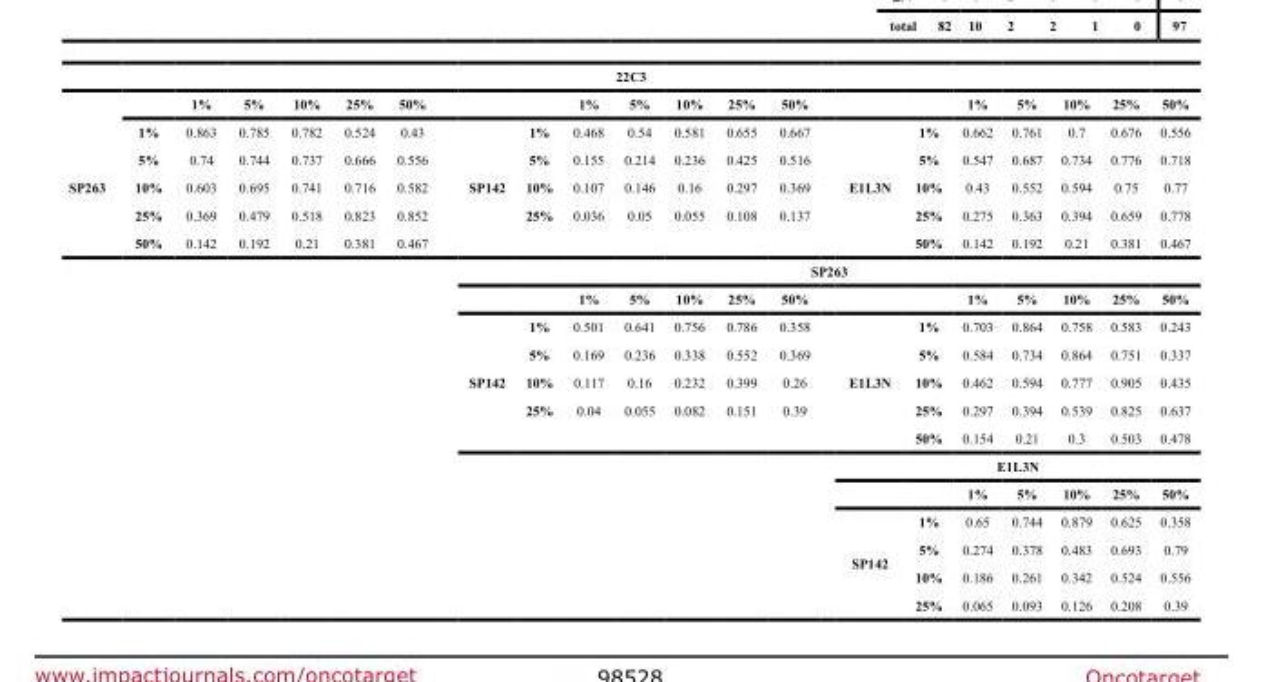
<table><tbody><tr><td colspan="21">22C3</td></tr><tr><td></td><td></td><td>1%</td><td>5%</td><td>10%</td><td>25%</td><td>50%</td><td></td><td></td><td>1%</td><td>5%</td><td>10%</td><td>25%</td><td>50%</td><td></td><td></td><td>1%</td><td>5%</td><td>10%</td><td>25%</td><td>50%</td></tr><tr><td rowspan="18">SP263</td><td>1%</td><td>0.863</td><td>0.785</td><td>0.782</td><td>0.524</td><td>0.43</td><td rowspan="4">SP142</td><td>1%</td><td>0.468</td><td>0.54</td><td>0.581</td><td>0.655</td><td>0.667</td><td rowspan="5">E1L3N</td><td>1%</td><td>0.662</td><td>0.761</td><td>0.7</td><td>0.676</td><td>0.556</td></tr><tr><td>5%</td><td>0.74</td><td>0.744</td><td>0.737</td><td>0.666</td><td>0.556</td><td>5%</td><td>0.155</td><td>0.214</td><td>0.236</td><td>0.425</td><td>0.516</td><td>5%</td><td>0.547</td><td>0.687</td><td>0.734</td><td>0.776</td><td>0.718</td></tr><tr><td>10%</td><td>0.603</td><td>0.695</td><td>0.741</td><td>0.716</td><td>0.582</td><td>10%</td><td>0.107</td><td>0.146</td><td>0.16</td><td>0.297</td><td>0.369</td><td>10%</td><td>0.43</td><td>0.552</td><td>0.594</td><td>0.75</td><td>0.77</td></tr><tr><td>25%</td><td>0.369</td><td>0.479</td><td>0.518</td><td>0.823</td><td>0.852</td><td>25%</td><td>0.036</td><td>0.05</td><td>0.055</td><td>0.108</td><td>0.137</td><td>25%</td><td>0.275</td><td>0.363</td><td>0.394</td><td>0.659</td><td>0.778</td></tr><tr><td>50%</td><td>0.142</td><td>0.192</td><td>0.21</td><td>0.381</td><td>0.467</td><td></td><td></td><td></td><td></td><td></td><td></td><td></td><td>50%</td><td>0.142</td><td>0.192</td><td>0.21</td><td>0.381</td><td>0.467</td></tr><tr><td></td><td></td><td></td><td></td><td></td><td></td><td colspan="14">SP263</td></tr><tr><td></td><td></td><td></td><td></td><td></td><td></td><td></td><td></td><td>1%</td><td>5%</td><td>10%</td><td>25%</td><td>50%</td><td></td><td></td><td>1%</td><td>5%</td><td>10%</td><td>25%</td><td>50%</td></tr><tr><td></td><td></td><td></td><td></td><td></td><td></td><td rowspan="5">SP142</td><td>1%</td><td>0.501</td><td>0.641</td><td>0.756</td><td>0.786</td><td>0.358</td><td rowspan="5">E1L3N</td><td>1%</td><td>0.703</td><td>0.864</td><td>0.758</td><td>0.583</td><td>0.243</td></tr><tr><td></td><td></td><td></td><td></td><td></td><td></td><td>5%</td><td>0.169</td><td>0.236</td><td>0.338</td><td>0.552</td><td>0.369</td><td>5%</td><td>0.584</td><td>0.734</td><td>0.864</td><td>0.751</td><td>0.337</td></tr><tr><td></td><td></td><td></td><td></td><td></td><td></td><td>10%</td><td>0.117</td><td>0.16</td><td>0.232</td><td>0.399</td><td>0.26</td><td>10%</td><td>0.462</td><td>0.594</td><td>0.777</td><td>0.905</td><td>0.435</td></tr><tr><td></td><td></td><td></td><td></td><td></td><td></td><td>25%</td><td>0.04</td><td>0.055</td><td>0.082</td><td>0.151</td><td>0.39</td><td>25%</td><td>0.297</td><td>0.394</td><td>0.539</td><td>0.825</td><td>0.637</td></tr><tr><td></td><td></td><td></td><td></td><td></td><td></td><td></td><td></td><td></td><td></td><td></td><td></td><td>50%</td><td>0.154</td><td>0.21</td><td>0.3</td><td>0.503</td><td>0.478</td></tr><tr><td></td><td></td><td></td><td></td><td></td><td></td><td></td><td></td><td></td><td></td><td></td><td></td><td></td><td colspan="7">E1L3N</td></tr><tr><td></td><td></td><td></td><td></td><td></td><td></td><td></td><td></td><td></td><td></td><td></td><td></td><td></td><td></td><td></td><td>1%</td><td>5%</td><td>10%</td><td>25%</td><td>50%</td></tr><tr><td></td><td></td><td></td><td></td><td></td><td></td><td></td><td></td><td></td><td></td><td></td><td></td><td></td><td rowspan="4">SP142</td><td>1%</td><td>0.65</td><td>0.744</td><td>0.879</td><td>0.625</td><td>0.358</td></tr><tr><td></td><td></td><td></td><td></td><td></td><td></td><td></td><td></td><td></td><td></td><td></td><td></td><td></td><td>5%</td><td>0.274</td><td>0.378</td><td>0.483</td><td>0.693</td><td>0.79</td></tr><tr><td></td><td></td><td></td><td></td><td></td><td></td><td></td><td></td><td></td><td></td><td></td><td></td><td></td><td>10%</td><td>0.186</td><td>0.261</td><td>0.342</td><td>0.524</td><td>0.556</td></tr><tr><td></td><td></td><td></td><td></td><td></td><td></td><td></td><td></td><td></td><td></td><td></td><td></td><td></td><td>25%</td><td>0.065</td><td>0.093</td><td>0.126</td><td>0.208</td><td>0.39</td></tr></tbody></table>